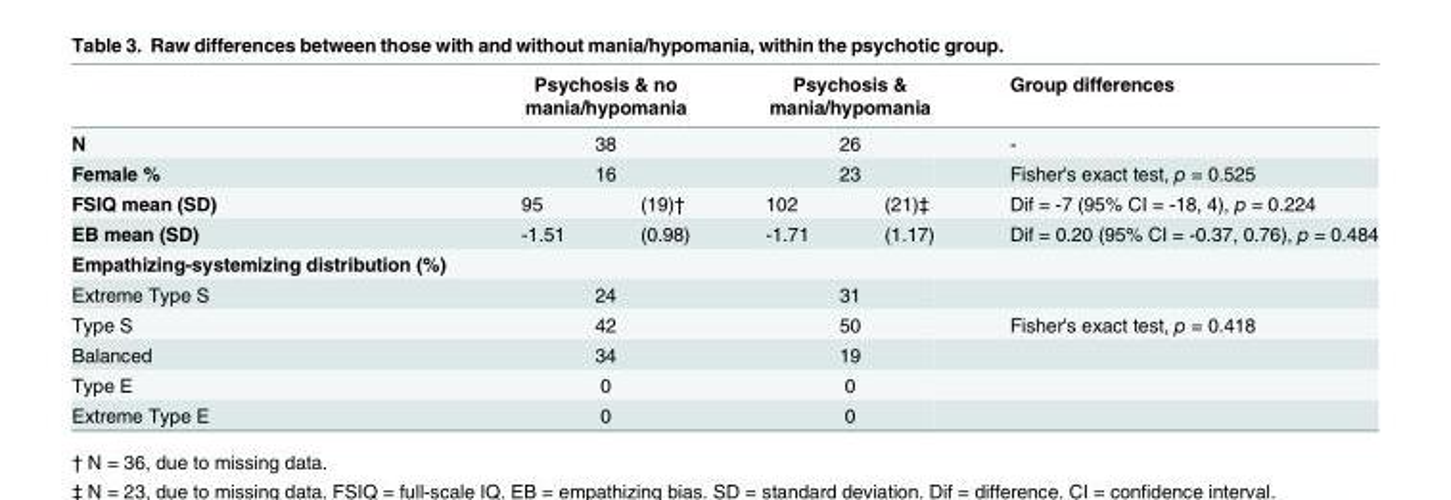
<table><thead><tr><td rowspan="4">N Female % FSIQ mean (SD)</td><td rowspan="3" colspan="2">Psychosis &amp; no mania/hypomania 38 16</td><td rowspan="3" colspan="2">Psychosis &amp; mania/hypomania 26 23</td><td rowspan="4">Group differences - Fisher&#x27;s exact test, p = 0.525 Dif = -7 (95% CI = -18, 4), p = 0.224</td></tr><tr></tr><tr></tr><tr><td>95</td><td>(19)†</td><td>102</td><td>(21)‡</td></tr></thead><tbody><tr><td>EB mean (SD)</td><td>-1.51</td><td>(0.98)</td><td>-1.71</td><td>(1.17)</td><td>Dif = 0.20 (95% CI = -0.37, 0.76), p = 0.484</td></tr><tr><td colspan="6">Empathizing-systemizing distribution (%)</td></tr><tr><td>Extreme Type S</td><td colspan="2">24</td><td colspan="2">31</td><td></td></tr><tr><td>Type S</td><td colspan="2">42</td><td colspan="2">50</td><td>Fisher&#x27;s exact test, p = 0.418</td></tr><tr><td>Balanced</td><td colspan="2">34</td><td colspan="2">19</td><td></td></tr><tr><td>Type E</td><td colspan="2">0</td><td colspan="2">0</td><td></td></tr><tr><td>Extreme Type E</td><td colspan="2">0</td><td colspan="2">0</td><td></td></tr></tbody></table>